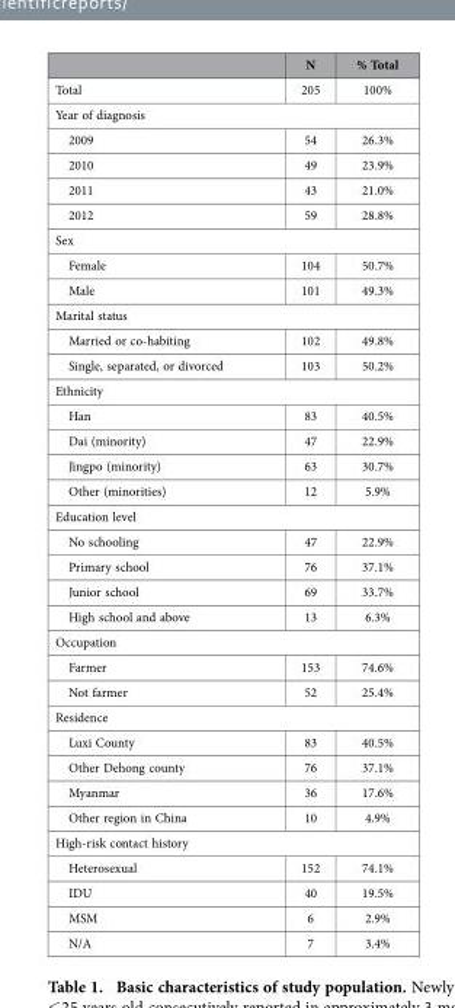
<table><thead><tr><td></td><td>N</td><td>% Total</td></tr></thead><tbody><tr><td>Total</td><td>205</td><td>100%</td></tr><tr><td colspan="3">Year of diagnosis</td></tr><tr><td>2009</td><td>54</td><td>26.3%</td></tr><tr><td>2010</td><td>49</td><td>23.9%</td></tr><tr><td>2011</td><td>43</td><td>21.0%</td></tr><tr><td>2012</td><td>59</td><td>28.8%</td></tr><tr><td colspan="3">Sex</td></tr><tr><td>Female</td><td>104</td><td>50.7%</td></tr><tr><td>Male</td><td>101</td><td>49.3%</td></tr><tr><td colspan="3">Marital status</td></tr><tr><td>Married or co-habiting</td><td>102</td><td>49.8%</td></tr><tr><td>Single, separated, or divorced</td><td>103</td><td>50.2%</td></tr><tr><td colspan="3">Ethnicity</td></tr><tr><td>Han</td><td>83</td><td>40.5%</td></tr><tr><td>Dai (minority)</td><td>47</td><td>22.9%</td></tr><tr><td>Jingpo (minority)</td><td>63</td><td>30.7%</td></tr><tr><td>Other (minorities)</td><td>12</td><td>5.9%</td></tr><tr><td colspan="3">Education level</td></tr><tr><td>No schooling</td><td>47</td><td>22.9%</td></tr><tr><td>Primary school</td><td>76</td><td>37.1%</td></tr><tr><td>Junior school</td><td>69</td><td>33.7%</td></tr><tr><td>High school and above</td><td>13</td><td>6.3%</td></tr><tr><td colspan="3">Occupation</td></tr><tr><td>Farmer</td><td>153</td><td>74.6%</td></tr><tr><td>Not farmer</td><td>52</td><td>25.4%</td></tr><tr><td colspan="3">Residence</td></tr><tr><td>Luxi County</td><td>83</td><td>40.5%</td></tr><tr><td>Other Dehong county</td><td>76</td><td>37.1%</td></tr><tr><td>Myanmar</td><td>36</td><td>17.6%</td></tr><tr><td>Other region in China</td><td>10</td><td>4.9%</td></tr><tr><td colspan="3">High-risk contact history</td></tr><tr><td>Heterosexual</td><td>152</td><td>74.1%</td></tr><tr><td>IDU</td><td>40</td><td>19.5%</td></tr><tr><td>MSM</td><td>6</td><td>2.9%</td></tr><tr><td>N/A</td><td>7</td><td>3.4%</td></tr></tbody></table>